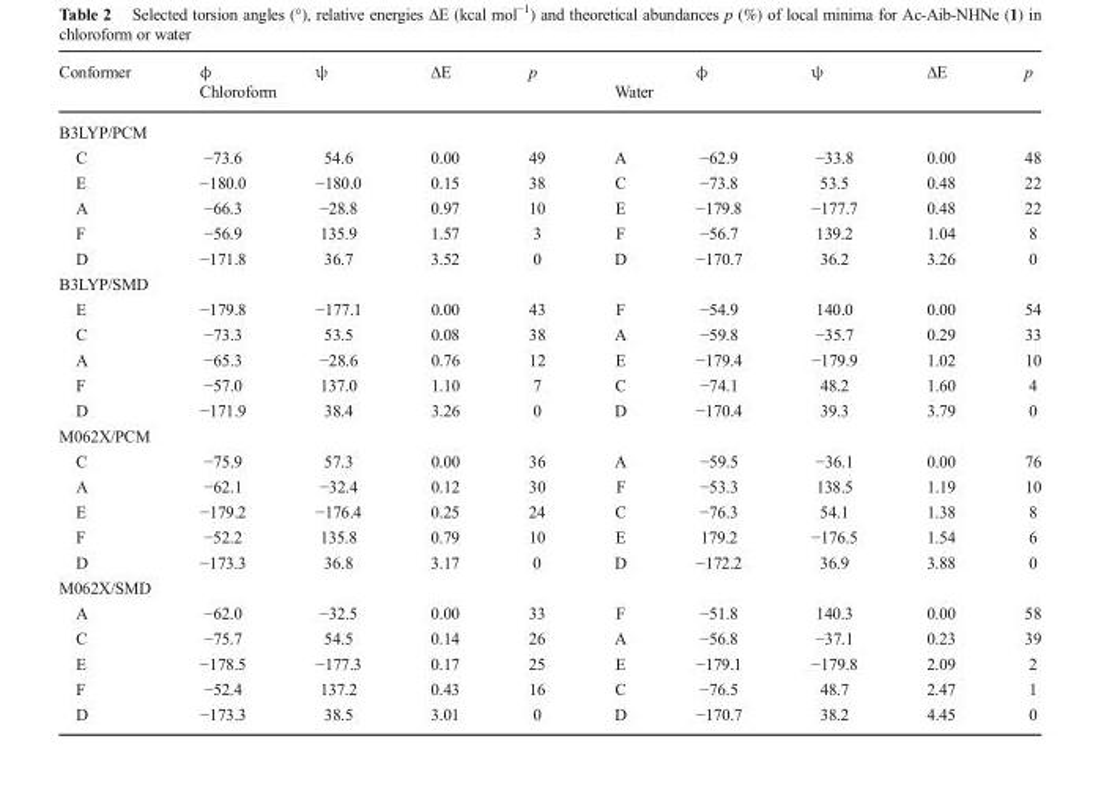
<table><thead><tr><td rowspan="2">Conformer</td><td>ϕ</td><td>ψ</td><td>ΔE</td><td>p</td><td></td><td>ϕ</td><td>ψ</td><td>ΔE</td><td>p</td></tr><tr><td colspan="4">Chloroform</td><td colspan="5">Water</td></tr></thead><tbody><tr><td colspan="10">B3LYP/PCM</td></tr><tr><td>C</td><td>−73.6</td><td>54.6</td><td>0.00</td><td>49</td><td>A</td><td>−62.9</td><td>−33.8</td><td>0.00</td><td>48</td></tr><tr><td>E</td><td>−180.0</td><td>−180.0</td><td>0.15</td><td>38</td><td>C</td><td>−73.8</td><td>53.5</td><td>0.48</td><td>22</td></tr><tr><td>A</td><td>−66.3</td><td>−28.8</td><td>0.97</td><td>10</td><td>E</td><td>−179.8</td><td>−177.7</td><td>0.48</td><td>22</td></tr><tr><td>F</td><td>−56.9</td><td>135.9</td><td>1.57</td><td>3</td><td>F</td><td>−56.7</td><td>139.2</td><td>1.04</td><td>8</td></tr><tr><td>D</td><td>−171.8</td><td>36.7</td><td>3.52</td><td>0</td><td>D</td><td>−170.7</td><td>36.2</td><td>3.26</td><td>0</td></tr><tr><td colspan="10">B3LYP/SMD</td></tr><tr><td>E</td><td>−179.8</td><td>−177.1</td><td>0.00</td><td>43</td><td>F</td><td>−54.9</td><td>140.0</td><td>0.00</td><td>54</td></tr><tr><td>C</td><td>−73.3</td><td>53.5</td><td>0.08</td><td>38</td><td>A</td><td>−59.8</td><td>−35.7</td><td>0.29</td><td>33</td></tr><tr><td>A</td><td>−65.3</td><td>−28.6</td><td>0.76</td><td>12</td><td>E</td><td>−179.4</td><td>−179.9</td><td>1.02</td><td>10</td></tr><tr><td>F</td><td>−57.0</td><td>137.0</td><td>1.10</td><td>7</td><td>C</td><td>−74.1</td><td>48.2</td><td>1.60</td><td>4</td></tr><tr><td>D</td><td>−171.9</td><td>38.4</td><td>3.26</td><td>0</td><td>D</td><td>−170.4</td><td>39.3</td><td>3.79</td><td>0</td></tr><tr><td colspan="10">M062X/PCM</td></tr><tr><td>C</td><td>−75.9</td><td>57.3</td><td>0.00</td><td>36</td><td>A</td><td>−59.5</td><td>−36.1</td><td>0.00</td><td>76</td></tr><tr><td>A</td><td>−62.1</td><td>−32.4</td><td>0.12</td><td>30</td><td>F</td><td>−53.3</td><td>138.5</td><td>1.19</td><td>10</td></tr><tr><td>E</td><td>−179.2</td><td>−176.4</td><td>0.25</td><td>24</td><td>C</td><td>−76.3</td><td>54.1</td><td>1.38</td><td>8</td></tr><tr><td>F</td><td>−52.2</td><td>135.8</td><td>0.79</td><td>10</td><td>E</td><td>179.2</td><td>−176.5</td><td>1.54</td><td>6</td></tr><tr><td>D</td><td>−173.3</td><td>36.8</td><td>3.17</td><td>0</td><td>D</td><td>−172.2</td><td>36.9</td><td>3.88</td><td>0</td></tr><tr><td colspan="10">M062X/SMD</td></tr><tr><td>A</td><td>−62.0</td><td>−32.5</td><td>0.00</td><td>33</td><td>F</td><td>−51.8</td><td>140.3</td><td>0.00</td><td>58</td></tr><tr><td>C</td><td>−75.7</td><td>54.5</td><td>0.14</td><td>26</td><td>A</td><td>−56.8</td><td>−37.1</td><td>0.23</td><td>39</td></tr><tr><td>E</td><td>−178.5</td><td>−177.3</td><td>0.17</td><td>25</td><td>E</td><td>−179.1</td><td>−179.8</td><td>2.09</td><td>2</td></tr><tr><td>F</td><td>−52.4</td><td>137.2</td><td>0.43</td><td>16</td><td>C</td><td>−76.5</td><td>48.7</td><td>2.47</td><td>1</td></tr><tr><td>D</td><td>−173.3</td><td>38.5</td><td>3.01</td><td>0</td><td>D</td><td>−170.7</td><td>38.2</td><td>4.45</td><td>0</td></tr></tbody></table>